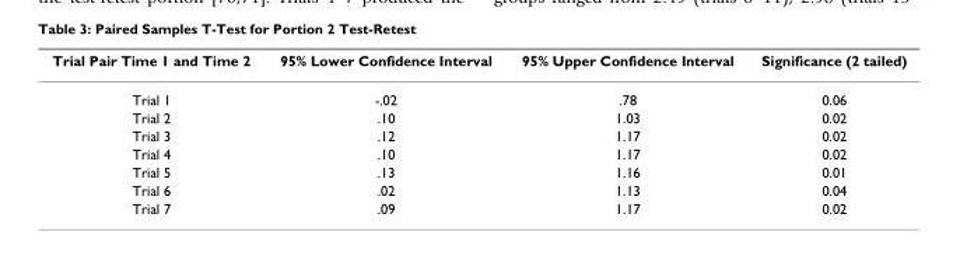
<table><thead><tr><td>Trial Pair Time 1 and Time 2</td><td>95% Lower Confidence Interval</td><td>95% Upper Confidence Interval</td><td>Significance (2 tailed)</td></tr></thead><tbody><tr><td>Trial 1</td><td>-.02</td><td>.78</td><td>0.06</td></tr><tr><td>Trial 2</td><td>.10</td><td>1.03</td><td>0.02</td></tr><tr><td>Trial 3</td><td>.12</td><td>1.17</td><td>0.02</td></tr><tr><td>Trial 4</td><td>.10</td><td>1.17</td><td>0.02</td></tr><tr><td>Trial 5</td><td>.13</td><td>1.16</td><td>0.01</td></tr><tr><td>Trial 6</td><td>.02</td><td>1.13</td><td>0.04</td></tr><tr><td>Trial 7</td><td>.09</td><td>1.17</td><td>0.02</td></tr></tbody></table>